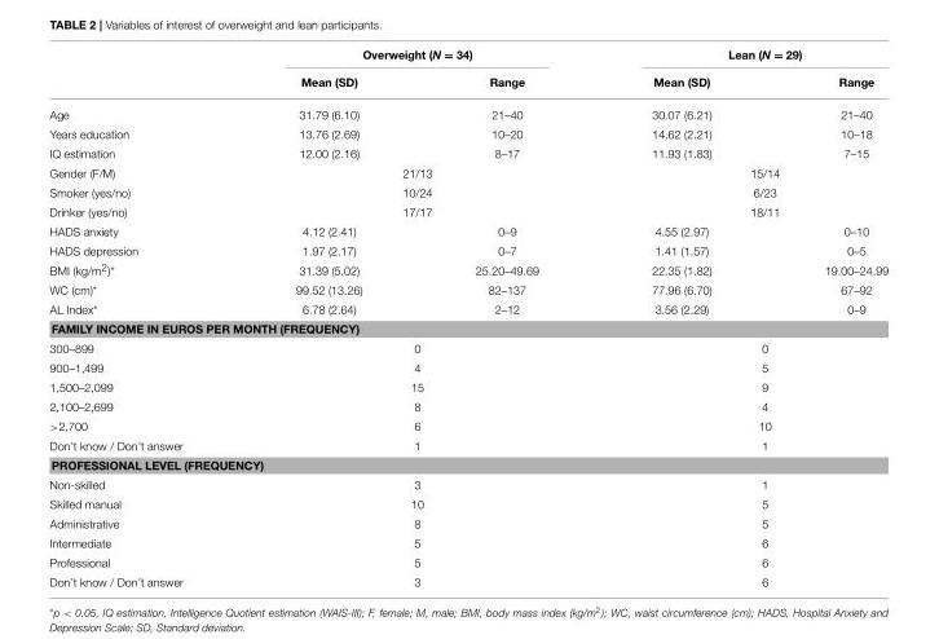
<table><thead><tr><td rowspan="2"></td><td colspan="2">Overweight (N = 34)</td><td colspan="2">Lean (N = 29)</td></tr><tr><td>Mean (SD)</td><td>Range</td><td>Mean (SD)</td><td>Range</td></tr></thead><tbody><tr><td>Age</td><td>31.79 (6.10)</td><td>21–40</td><td>30.07 (6.21)</td><td>21–40</td></tr><tr><td>Years education</td><td>13.76 (2.69)</td><td>10–20</td><td>14.62 (2.21)</td><td>10–18</td></tr><tr><td>IQ estimation</td><td>12.00 (2.16)</td><td>8–17</td><td>11.93 (1.83)</td><td>7–15</td></tr><tr><td>Gender (F/M)</td><td colspan="2">21/13</td><td colspan="2">15/14</td></tr><tr><td>Smoker (yes/no)</td><td colspan="2">10/24</td><td colspan="2">6/23</td></tr><tr><td>Drinker (yes/no)</td><td colspan="2">17/17</td><td colspan="2">18/11</td></tr><tr><td>HADS anxiety</td><td>4.12 (2.41)</td><td>0–9</td><td>4.55 (2.97)</td><td>0–10</td></tr><tr><td>HADS depression</td><td>1.97 (2.17)</td><td>0–7</td><td>1.41 (1.57)</td><td>0–5</td></tr><tr><td>BMI (kg/m<sup>2</sup>)*</td><td>31.39 (5.02)</td><td>25.20–49.69</td><td>22.35 (1.82)</td><td>19.00–24.99</td></tr><tr><td>WC (cm)*</td><td>99.52 (13.26)</td><td>82–137</td><td>77.96 (6.70)</td><td>67–92</td></tr><tr><td>AL Index*</td><td>6.78 (2.64)</td><td>2–12</td><td>3.56 (2.29)</td><td>0–9</td></tr><tr><td colspan="5">FAMILY INCOME IN EUROS PER MONTH (FREQUENCY)</td></tr><tr><td>300–899</td><td colspan="2">0</td><td colspan="2">0</td></tr><tr><td>900–1,499</td><td colspan="2">4</td><td colspan="2">5</td></tr><tr><td>1,500–2,099</td><td colspan="2">15</td><td colspan="2">9</td></tr><tr><td>2,100–2,699</td><td colspan="2">8</td><td colspan="2">4</td></tr><tr><td>&gt;2,700</td><td colspan="2">6</td><td colspan="2">10</td></tr><tr><td>Don’t know / Don’t answer</td><td colspan="2">1</td><td colspan="2">1</td></tr><tr><td colspan="5">PROFESSIONAL LEVEL (FREQUENCY)</td></tr><tr><td>Non-skilled</td><td colspan="2">3</td><td colspan="2">1</td></tr><tr><td>Skilled manual</td><td colspan="2">10</td><td colspan="2">5</td></tr><tr><td>Administrative</td><td colspan="2">8</td><td colspan="2">5</td></tr><tr><td>Intermediate</td><td colspan="2">5</td><td colspan="2">6</td></tr><tr><td>Professional</td><td colspan="2">5</td><td colspan="2">6</td></tr><tr><td>Don’t know / Don’t answer</td><td colspan="2">3</td><td colspan="2">6</td></tr></tbody></table>